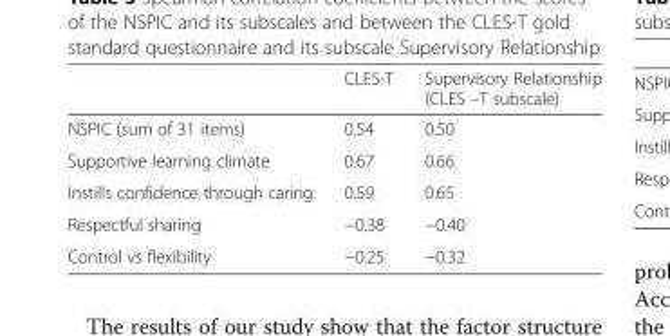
<table><thead><tr><td></td><td>CLES-T</td><td>Supervisory Relationship (CLES –T subscale)</td></tr></thead><tbody><tr><td>NSPIC (sum of 31 items)</td><td>0.54</td><td>0.50</td></tr><tr><td>Supportive learning climate</td><td>0.67</td><td>0.66</td></tr><tr><td>Instills confidence through caring</td><td>0.59</td><td>0.65</td></tr><tr><td>Respectful sharing</td><td>−0.38</td><td>−0.40</td></tr><tr><td>Control vs flexibility</td><td>−0.25</td><td>−0.32</td></tr></tbody></table>